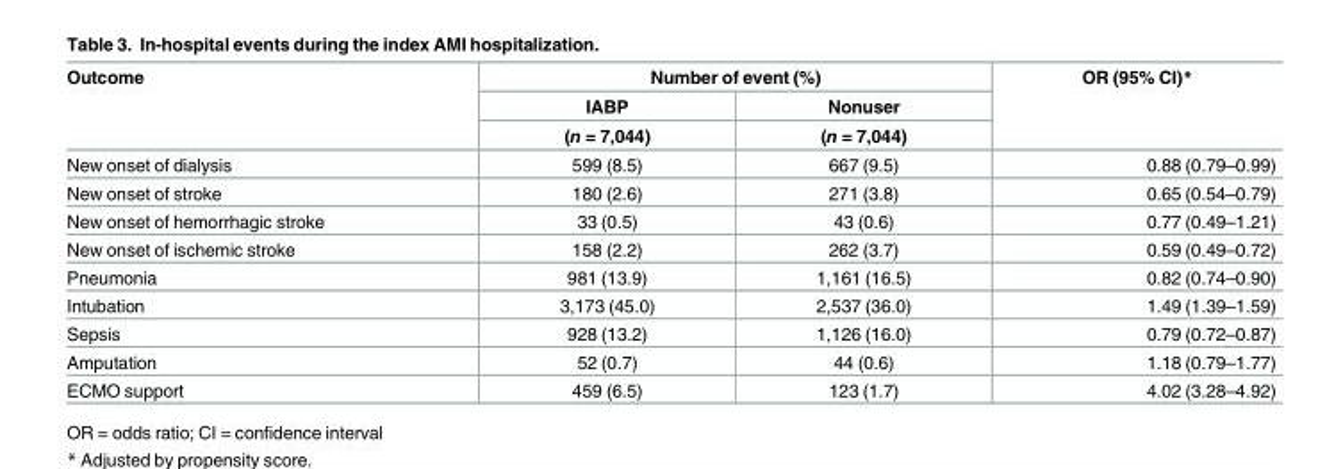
<table><thead><tr><td rowspan="3">Outcome</td><td colspan="2">Number of event (%)</td><td rowspan="3">OR (95% CI)*</td></tr><tr><td rowspan="2">IABP (n = 7,044)</td><td rowspan="2">Nonuser (n = 7,044)</td></tr><tr></tr></thead><tbody><tr><td>New onset of dialysis</td><td>599 (8.5)</td><td>667 (9.5)</td><td>0.88 (0.79–0.99)</td></tr><tr><td>New onset of stroke</td><td>180 (2.6)</td><td>271 (3.8)</td><td>0.65 (0.54–0.79)</td></tr><tr><td>New onset of hemorrhagic stroke</td><td>33 (0.5)</td><td>43 (0.6)</td><td>0.77 (0.49–1.21)</td></tr><tr><td>New onset of ischemic stroke</td><td>158 (2.2)</td><td>262 (3.7)</td><td>0.59 (0.49–0.72)</td></tr><tr><td>Pneumonia</td><td>981 (13.9)</td><td>1,161 (16.5)</td><td>0.82 (0.74–0.90)</td></tr><tr><td>Intubation</td><td>3,173 (45.0)</td><td>2,537 (36.0)</td><td>1.49 (1.39–1.59)</td></tr><tr><td>Sepsis</td><td>928 (13.2)</td><td>1,126 (16.0)</td><td>0.79 (0.72–0.87)</td></tr><tr><td>Amputation</td><td>52 (0.7)</td><td>44 (0.6)</td><td>1.18 (0.79–1.77)</td></tr><tr><td>ECMO support</td><td>459 (6.5)</td><td>123 (1.7)</td><td>4.02 (3.28–4.92)</td></tr></tbody></table>